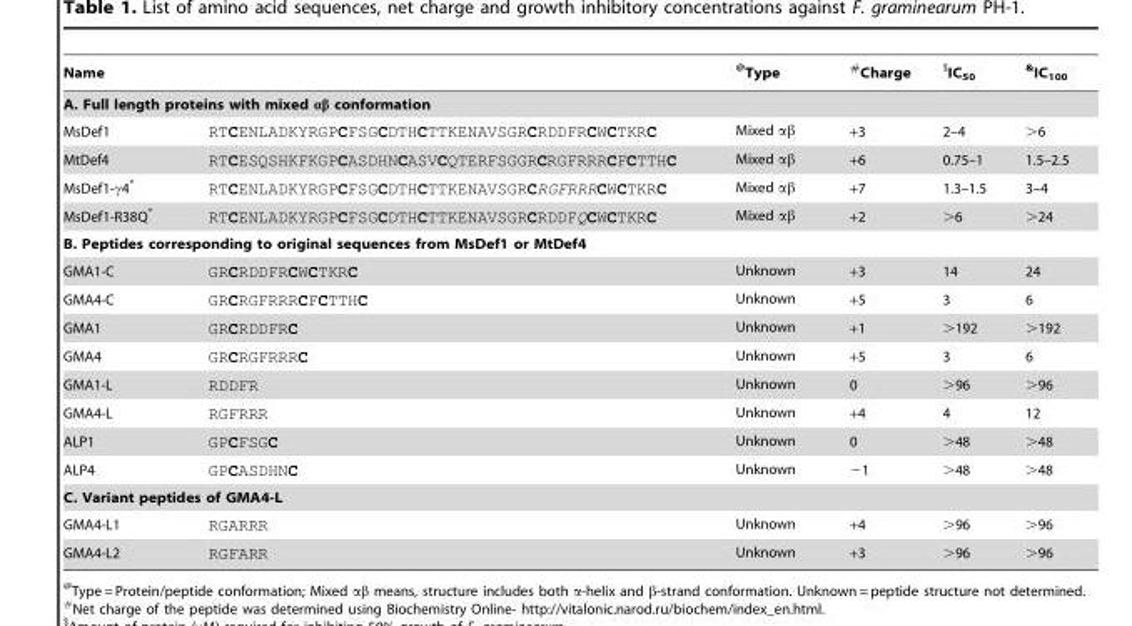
<table><thead><tr><td>Name</td><td></td><td>@Type</td><td>#Charge</td><td>$IC<sub>50</sub></td><td>&amp;IC<sub>100</sub></td></tr></thead><tbody><tr><td colspan="6">A. Full length proteins with mixed αβ conformation</td></tr><tr><td>MsDef1</td><td>RTCENLADKYRGPCFSGCDTHCTTKENAVSGRCRDDFRCWCTKRC</td><td>Mixed αβ</td><td>+3</td><td>2–4</td><td>&gt;6</td></tr><tr><td>MtDef4</td><td>RTCESQSHKFKGPCASDHNCASVCQTERFSGGRCRGFRRRCFCTTHC</td><td>Mixed αβ</td><td>+6</td><td>0.75–1</td><td>1.5–2.5</td></tr><tr><td>MsDef1-γ4*</td><td>RTCENLADKYRGPCFSGCDTHCTTKENAVSGRCRGFRRRCWCTKRC</td><td>Mixed αβ</td><td>+7</td><td>1.3–1.5</td><td>3–4</td></tr><tr><td>MsDef1-R38Q*</td><td>RTCENLADKYRGPCFSGCDTHCTTKENAVSGRCRDDFQCWCTKRC</td><td>Mixed αβ</td><td>+2</td><td>&gt;6</td><td>&gt;24</td></tr><tr><td colspan="6">B. Peptides corresponding to original sequences from MsDef1 or MtDef4</td></tr><tr><td>GMA1-C</td><td>GRCRDDFRCWCTKRC</td><td>Unknown</td><td>+3</td><td>14</td><td>24</td></tr><tr><td>GMA4-C</td><td>GRCRGFRRRCFCTTHC</td><td>Unknown</td><td>+5</td><td>3</td><td>6</td></tr><tr><td>GMA1</td><td>GRCRDDFRC</td><td>Unknown</td><td>+1</td><td>&gt;192</td><td>&gt;192</td></tr><tr><td>GMA4</td><td>GRCRGFRRRC</td><td>Unknown</td><td>+5</td><td>3</td><td>6</td></tr><tr><td>GMA1-L</td><td>RDDFR</td><td>Unknown</td><td>0</td><td>&gt;96</td><td>&gt;96</td></tr><tr><td>GMA4-L</td><td>RGFRRR</td><td>Unknown</td><td>+4</td><td>4</td><td>12</td></tr><tr><td>ALP1</td><td>GPCFSGC</td><td>Unknown</td><td>0</td><td>&gt;48</td><td>&gt;48</td></tr><tr><td>ALP4</td><td>GPCASDHNC</td><td>Unknown</td><td>−1</td><td>&gt;48</td><td>&gt;48</td></tr><tr><td colspan="6">C. Variant peptides of GMA4-L</td></tr><tr><td>GMA4-L1</td><td>RGARRR</td><td>Unknown</td><td>+4</td><td>&gt;96</td><td>&gt;96</td></tr><tr><td>GMA4-L2</td><td>RGFARR</td><td>Unknown</td><td>+3</td><td>&gt;96</td><td>&gt;96</td></tr></tbody></table>